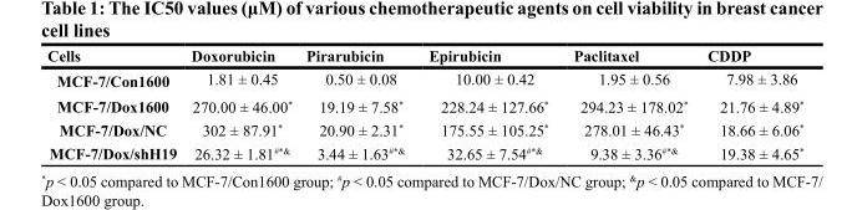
<table><thead><tr><td>Cells</td><td>Doxorubicin</td><td>Pirarubicin</td><td>Epirubicin</td><td>Paclitaxel</td><td>CDDP</td></tr></thead><tbody><tr><td>MCF-7/Con1600</td><td>1.81 ± 0.45</td><td>0.50 ± 0.08</td><td>10.00 ± 0.42</td><td>1.95 ± 0.56</td><td>7.98 ± 3.86</td></tr><tr><td>MCF-7/Dox1600</td><td>270.00 ± 46.00*</td><td>19.19 ± 7.58*</td><td>228.24 ± 127.66*</td><td>294.23 ± 178.02*</td><td>21.76 ± 4.89*</td></tr><tr><td>MCF-7/Dox/NC</td><td>302 ± 87.91*</td><td>20.90 ± 2.31*</td><td>175.55 ± 105.25*</td><td>278.01 ± 46.43*</td><td>18.66 ± 6.06*</td></tr><tr><td>MCF-7/Dox/shH19</td><td>26.32 ± 1.81<sup>#</sup>*<sup>&amp;</sup></td><td>3.44 ± 1.63<sup>#</sup>*<sup>&amp;</sup></td><td>32.65 ± 7.54<sup>#</sup>*<sup>&amp;</sup></td><td>9.38 ± 3.36<sup>#</sup>*<sup>&amp;</sup></td><td>19.38 ± 4.65*</td></tr></tbody></table>